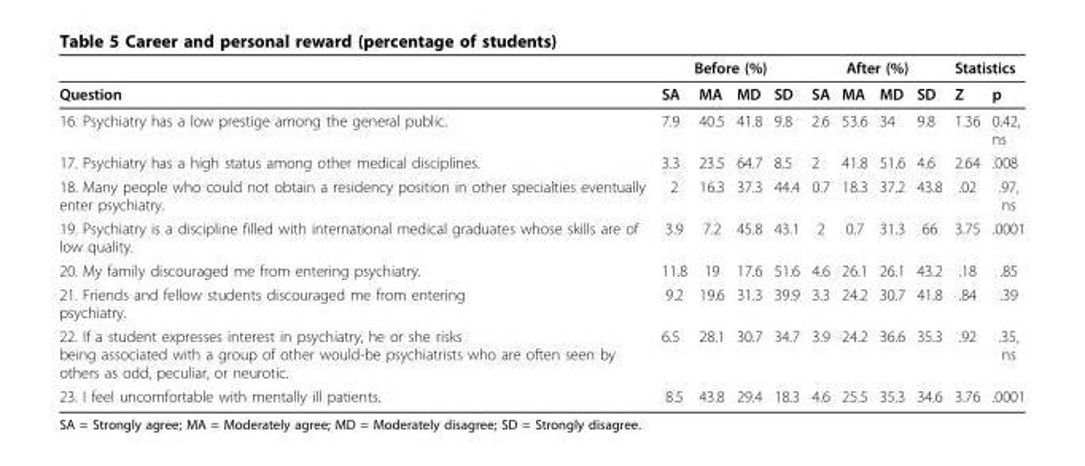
<table><thead><tr><td rowspan="2">Question</td><td colspan="4">Before (%)</td><td colspan="4">After (%)</td><td colspan="2">Statistics</td></tr><tr><td>SA</td><td>MA</td><td>MD</td><td>SD</td><td>SA</td><td>MA</td><td>MD</td><td>SD</td><td>Z</td><td>p</td></tr></thead><tbody><tr><td>16. Psychiatry has a low prestige among the general public.</td><td>7.9</td><td>40.5</td><td>41.8</td><td>9.8</td><td>2.6</td><td>53.6</td><td>34</td><td>9.8</td><td>1.36</td><td>0.42, ns</td></tr><tr><td>17. Psychiatry has a high status among other medical disciplines.</td><td>3.3</td><td>23.5</td><td>64.7</td><td>8.5</td><td>2</td><td>41.8</td><td>51.6</td><td>4.6</td><td>2.64</td><td>.008</td></tr><tr><td>18. Many people who could not obtain a residency position in other specialties eventually enter psychiatry.</td><td>2</td><td>16.3</td><td>37.3</td><td>44.4</td><td>0.7</td><td>18.3</td><td>37.2</td><td>43.8</td><td>.02</td><td>.97, ns</td></tr><tr><td>19. Psychiatry is a discipline filled with international medical graduates whose skills are of low quality.</td><td>3.9</td><td>7.2</td><td>45.8</td><td>43.1</td><td>2</td><td>0.7</td><td>31.3</td><td>66</td><td>3.75</td><td>.0001</td></tr><tr><td>20. My family discouraged me from entering psychiatry.</td><td>11.8</td><td>19</td><td>17.6</td><td>51.6</td><td>4.6</td><td>26.1</td><td>26.1</td><td>43.2</td><td>.18</td><td>.85</td></tr><tr><td>21. Friends and fellow students discouraged me from entering psychiatry.</td><td>9.2</td><td>19.6</td><td>31.3</td><td>39.9</td><td>3.3</td><td>24.2</td><td>30.7</td><td>41.8</td><td>.84</td><td>.39</td></tr><tr><td>22. If a student expresses interest in psychiatry, he or she risks being associated with a group of other would-be psychiatrists who are often seen by others as odd, peculiar, or neurotic.</td><td>6.5</td><td>28.1</td><td>30.7</td><td>34.7</td><td>3.9</td><td>24.2</td><td>36.6</td><td>35.3</td><td>.92</td><td>.35, ns</td></tr><tr><td>23. I feel uncomfortable with mentally ill patients.</td><td>8.5</td><td>43.8</td><td>29.4</td><td>18.3</td><td>4.6</td><td>25.5</td><td>35.3</td><td>34.6</td><td>3.76</td><td>.0001</td></tr></tbody></table>